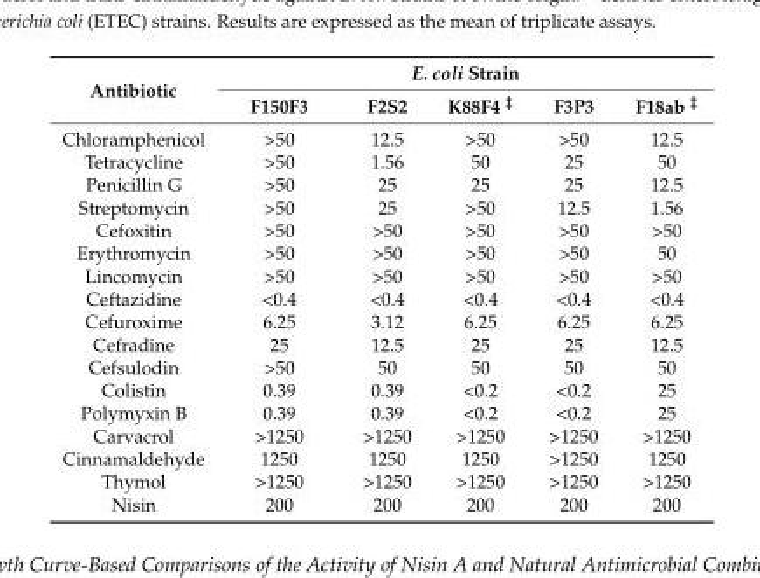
<table><thead><tr><td rowspan="2">Antibiotic</td><td colspan="5">E. coli Strain</td></tr><tr><td>F150F3</td><td>F2S2</td><td>K88F4 <sup>‡</sup></td><td>F3P3</td><td>F18ab <sup>‡</sup></td></tr></thead><tbody><tr><td>Chloramphenicol</td><td>&gt;50</td><td>12.5</td><td>&gt;50</td><td>&gt;50</td><td>12.5</td></tr><tr><td>Tetracycline</td><td>&gt;50</td><td>1.56</td><td>50</td><td>25</td><td>50</td></tr><tr><td>Penicillin G</td><td>&gt;50</td><td>25</td><td>25</td><td>25</td><td>12.5</td></tr><tr><td>Streptomycin</td><td>&gt;50</td><td>25</td><td>&gt;50</td><td>12.5</td><td>1.56</td></tr><tr><td>Cefoxitin</td><td>&gt;50</td><td>&gt;50</td><td>&gt;50</td><td>&gt;50</td><td>&gt;50</td></tr><tr><td>Erythromycin</td><td>&gt;50</td><td>&gt;50</td><td>&gt;50</td><td>&gt;50</td><td>50</td></tr><tr><td>Lincomycin</td><td>&gt;50</td><td>&gt;50</td><td>&gt;50</td><td>&gt;50</td><td>&gt;50</td></tr><tr><td>Ceftazidine</td><td>&lt;0.4</td><td>&lt;0.4</td><td>&lt;0.4</td><td>&lt;0.4</td><td>&lt;0.4</td></tr><tr><td>Cefuroxime</td><td>6.25</td><td>3.12</td><td>6.25</td><td>6.25</td><td>6.25</td></tr><tr><td>Cefradine</td><td>25</td><td>12.5</td><td>25</td><td>25</td><td>12.5</td></tr><tr><td>Cefsulodin</td><td>&gt;50</td><td>50</td><td>50</td><td>50</td><td>50</td></tr><tr><td>Colistin</td><td>0.39</td><td>0.39</td><td>&lt;0.2</td><td>&lt;0.2</td><td>25</td></tr><tr><td>Polymyxin B</td><td>0.39</td><td>0.39</td><td>&lt;0.2</td><td>&lt;0.2</td><td>25</td></tr><tr><td>Carvacrol</td><td>&gt;1250</td><td>&gt;1250</td><td>&gt;1250</td><td>&gt;1250</td><td>&gt;1250</td></tr><tr><td>Cinnamaldehyde</td><td>1250</td><td>1250</td><td>1250</td><td>&gt;1250</td><td>1250</td></tr><tr><td>Thymol</td><td>&gt;1250</td><td>&gt;1250</td><td>&gt;1250</td><td>&gt;1250</td><td>&gt;1250</td></tr><tr><td>Nisin</td><td>200</td><td>200</td><td>200</td><td>200</td><td>200</td></tr></tbody></table>